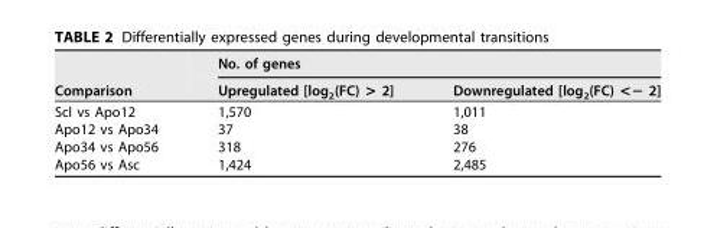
<table><thead><tr><td rowspan="2">Comparison</td><td colspan="2">No. of genes</td></tr><tr><td>Upregulated [log<sub>2</sub>(FC) &gt; 2]</td><td>Downregulated [log<sub>2</sub>(FC) &lt;− 2]</td></tr></thead><tbody><tr><td>Scl vs Apo12</td><td>1,570</td><td>1,011</td></tr><tr><td>Apo12 vs Apo34</td><td>37</td><td>38</td></tr><tr><td>Apo34 vs Apo56</td><td>318</td><td>276</td></tr><tr><td>Apo56 vs Asc</td><td>1,424</td><td>2,485</td></tr></tbody></table>